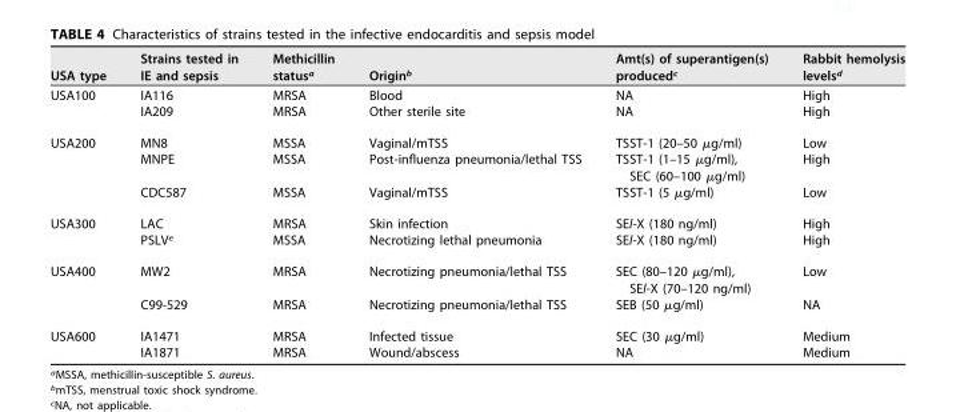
<table><thead><tr><td>USA type</td><td>Strains tested in IE and sepsis</td><td>Methicillin status<sup>a</sup></td><td>Origin<sup>b</sup></td><td>Amt(s) of superantigen(s) produced<sup>c</sup></td><td>Rabbit hemolysis levels<sup>d</sup></td></tr></thead><tbody><tr><td rowspan="2">USA100</td><td>IA116</td><td>MRSA</td><td>Blood</td><td>NA</td><td>High</td></tr><tr><td>IA209</td><td>MRSA</td><td>Other sterile site</td><td>NA</td><td>High</td></tr><tr><td rowspan="3">USA200</td><td>MN8</td><td>MSSA</td><td>Vaginal/mTSS</td><td>TSST-1 (20–50 µg/ml)</td><td>Low</td></tr><tr><td>MNPE</td><td>MSSA</td><td>Post-influenza pneumonia/lethal TSS</td><td>TSST-1 (1–15 µg/ml), SEC (60–100 µg/ml)</td><td>High</td></tr><tr><td>CDC587</td><td>MSSA</td><td>Vaginal/mTSS</td><td>TSST-1 (5 µg/ml)</td><td>Low</td></tr><tr><td rowspan="2">USA300</td><td>LAC</td><td>MRSA</td><td>Skin infection</td><td>SEl-X (180 ng/ml)</td><td>High</td></tr><tr><td>PSLV<sup>e</sup></td><td>MSSA</td><td>Necrotizing lethal pneumonia</td><td>SEl-X (180 ng/ml)</td><td>High</td></tr><tr><td rowspan="2">USA400</td><td>MW2</td><td>MRSA</td><td>Necrotizing pneumonia/lethal TSS</td><td>SEC (80–120 µg/ml), SEl-X (70–120 ng/ml)</td><td>Low</td></tr><tr><td>C99-529</td><td>MRSA</td><td>Necrotizing pneumonia/lethal TSS</td><td>SEB (50 µg/ml)</td><td>NA</td></tr><tr><td rowspan="2">USA600</td><td>IA1471</td><td>MRSA</td><td>Infected tissue</td><td>SEC (30 µg/ml)</td><td>Medium</td></tr><tr><td>IA1871</td><td>MRSA</td><td>Wound/abscess</td><td>NA</td><td>Medium</td></tr></tbody></table>